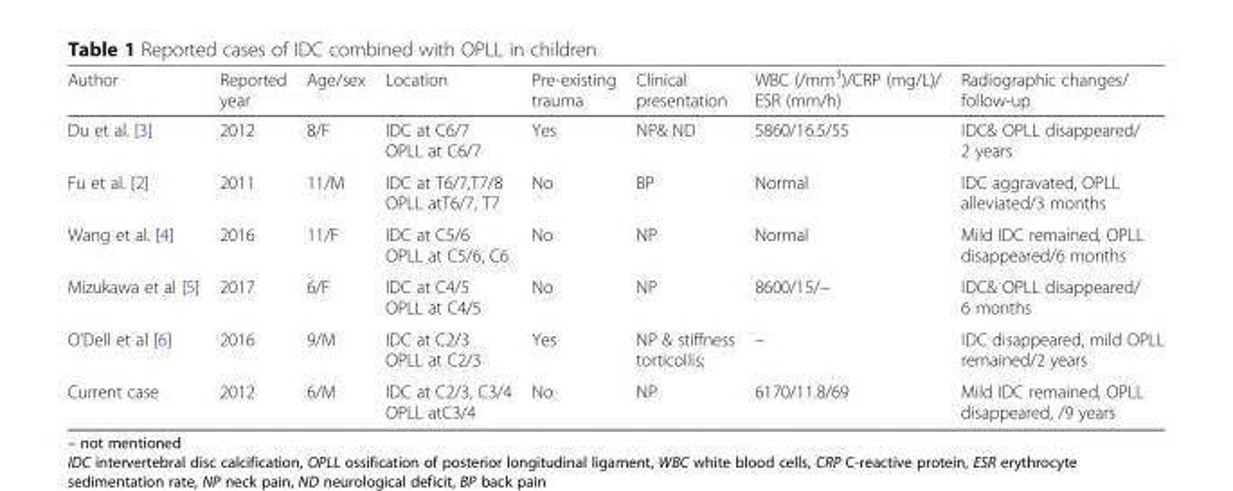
<table><thead><tr><td>Author</td><td>Reported year</td><td>Age/sex</td><td>Location</td><td>Pre-existing trauma</td><td>Clinical presentation</td><td>WBC (/mm<sup>3</sup>)/CRP (mg/L)/ ESR (mm/h)</td><td>Radiographic changes/ follow-up</td></tr></thead><tbody><tr><td>Du et al. [3]</td><td>2012</td><td>8/F</td><td>IDC at C6/7 OPLL at C6/7</td><td>Yes</td><td>NP&amp; ND</td><td>5860/16.5/55</td><td>IDC&amp; OPLL disappeared/ 2 years</td></tr><tr><td>Fu et al. [2]</td><td>2011</td><td>11/M</td><td>IDC at T6/7,T7/8 OPLL atT6/7, T7</td><td>No</td><td>BP</td><td>Normal</td><td>IDC aggravated, OPLL alleviated/3 months</td></tr><tr><td>Wang et al. [4]</td><td>2016</td><td>11/F</td><td>IDC at C5/6 OPLL at C5/6, C6</td><td>No</td><td>NP</td><td>Normal</td><td>Mild IDC remained, OPLL disappeared/6 months</td></tr><tr><td>Mizukawa et al [5]</td><td>2017</td><td>6/F</td><td>IDC at C4/5 OPLL at C4/5</td><td>No</td><td>NP</td><td>8600/15/−</td><td>IDC&amp; OPLL disappeared/ 6 months</td></tr><tr><td>O’Dell et al [6]</td><td>2016</td><td>9/M</td><td>IDC at C2/3 OPLL at C2/3</td><td>Yes</td><td>NP &amp; stiffness torticollis;</td><td>–</td><td>IDC disappeared, mild OPLL remained/2 years</td></tr><tr><td>Current case</td><td>2012</td><td>6/M</td><td>IDC at C2/3, C3/4 OPLL atC3/4</td><td>No</td><td>NP</td><td>6170/11.8/69</td><td>Mild IDC remained, OPLL disappeared, /9 years</td></tr></tbody></table>